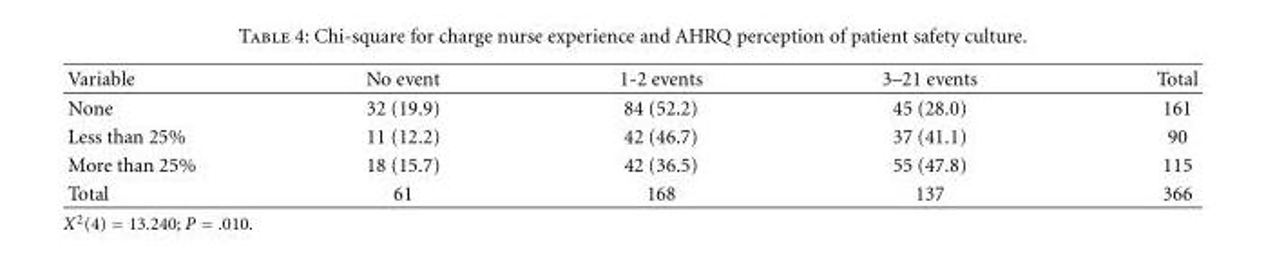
<table><thead><tr><td>Variable</td><td>No event</td><td>1-2 events</td><td>3–21 events</td><td>Total</td></tr></thead><tbody><tr><td>None</td><td>32 (19.9)</td><td>84 (52.2)</td><td>45 (28.0)</td><td>161</td></tr><tr><td>Less than 25%</td><td>11 (12.2)</td><td>42 (46.7)</td><td>37 (41.1)</td><td>90</td></tr><tr><td>More than 25%</td><td>18 (15.7)</td><td>42 (36.5)</td><td>55 (47.8)</td><td>115</td></tr><tr><td>Total</td><td>61</td><td>168</td><td>137</td><td>366</td></tr></tbody></table>